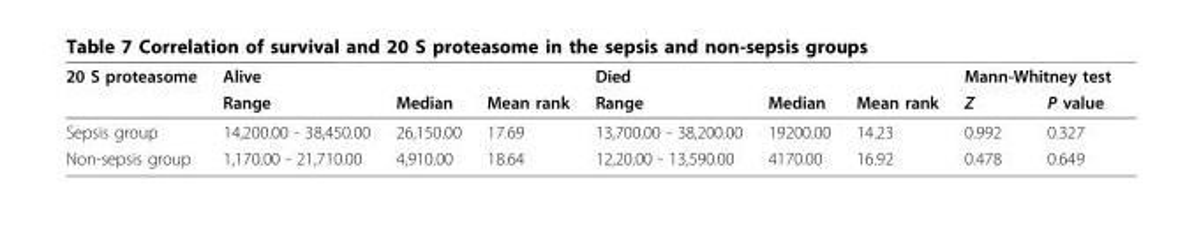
<table><thead><tr><td rowspan="2">20 S proteasome</td><td colspan="3">Alive</td><td colspan="3">Died</td><td colspan="2">Mann-Whitney test</td></tr><tr><td>Range</td><td>Median</td><td>Mean rank</td><td>Range</td><td>Median</td><td>Mean rank</td><td>Z</td><td>P value</td></tr></thead><tbody><tr><td>Sepsis group</td><td>14,200.00 - 38,450.00</td><td>26,150.00</td><td>17.69</td><td>13,700.00 - 38,200.00</td><td>19200.00</td><td>14.23</td><td>0.992</td><td>0.327</td></tr><tr><td>Non-sepsis group</td><td>1,170.00 - 21,710.00</td><td>4,910.00</td><td>18.64</td><td>12,20.00 - 13,590.00</td><td>4170.00</td><td>16.92</td><td>0.478</td><td>0.649</td></tr></tbody></table>